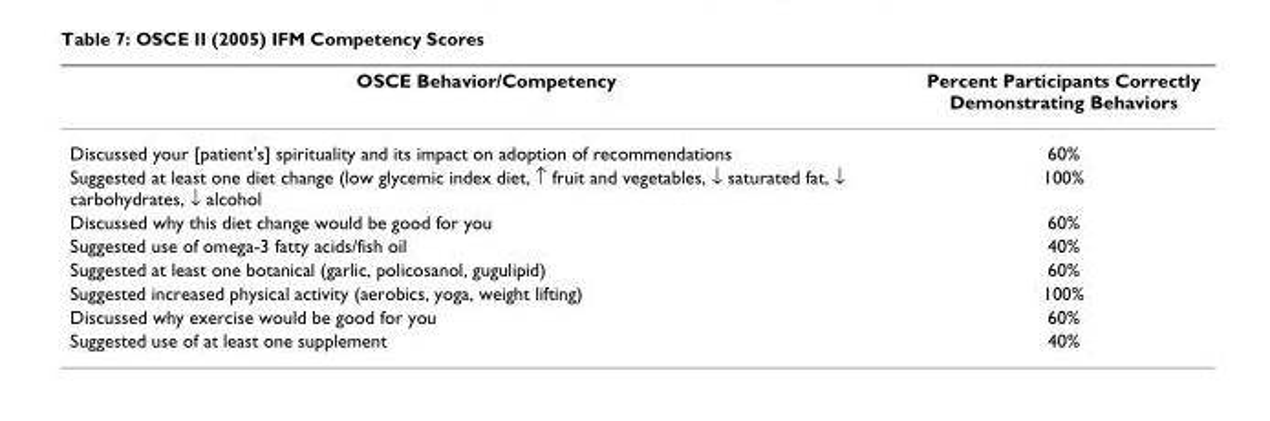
<table><thead><tr><td>OSCE Behavior/Competency</td><td>Percent Participants Correctly Demonstrating Behaviors</td></tr></thead><tbody><tr><td>Discussed your [patient&#x27;s] spirituality and its impact on adoption of recommendations</td><td>60%</td></tr><tr><td>Suggested at least one diet change (low glycemic index diet, ↑ fruit and vegetables, ↓ saturated fat, ↓ carbohydrates, ↓ alcohol</td><td>100%</td></tr><tr><td>Discussed why this diet change would be good for you</td><td>60%</td></tr><tr><td>Suggested use of omega-3 fatty acids/fish oil</td><td>40%</td></tr><tr><td>Suggested at least one botanical (garlic, policosanol, gugulipid)</td><td>60%</td></tr><tr><td>Suggested increased physical activity (aerobics, yoga, weight lifting)</td><td>100%</td></tr><tr><td>Discussed why exercise would be good for you</td><td>60%</td></tr><tr><td>Suggested use of at least one supplement</td><td>40%</td></tr></tbody></table>